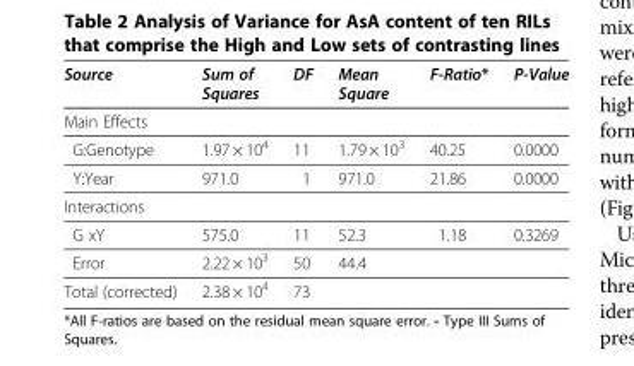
<table><thead><tr><td>Source</td><td>Sum of Squares</td><td>DF</td><td>Mean Square</td><td>F-Ratio*</td><td>P-Value</td></tr></thead><tbody><tr><td colspan="6">Main Effects</td></tr><tr><td>G:Genotype</td><td>1.97 × 10<sup>4</sup></td><td>11</td><td>1.79 × 10<sup>3</sup></td><td>40.25</td><td>0.0000</td></tr><tr><td>Y:Year</td><td>971.0</td><td>1</td><td>971.0</td><td>21.86</td><td>0.0000</td></tr><tr><td colspan="6">Interactions</td></tr><tr><td>G xY</td><td>575.0</td><td>11</td><td>52.3</td><td>1.18</td><td>0.3269</td></tr><tr><td>Error</td><td>2.22 × 10<sup>3</sup></td><td>50</td><td>44.4</td><td></td><td></td></tr><tr><td>Total (corrected)</td><td>2.38 × 10<sup>4</sup></td><td>73</td><td></td><td></td><td></td></tr></tbody></table>